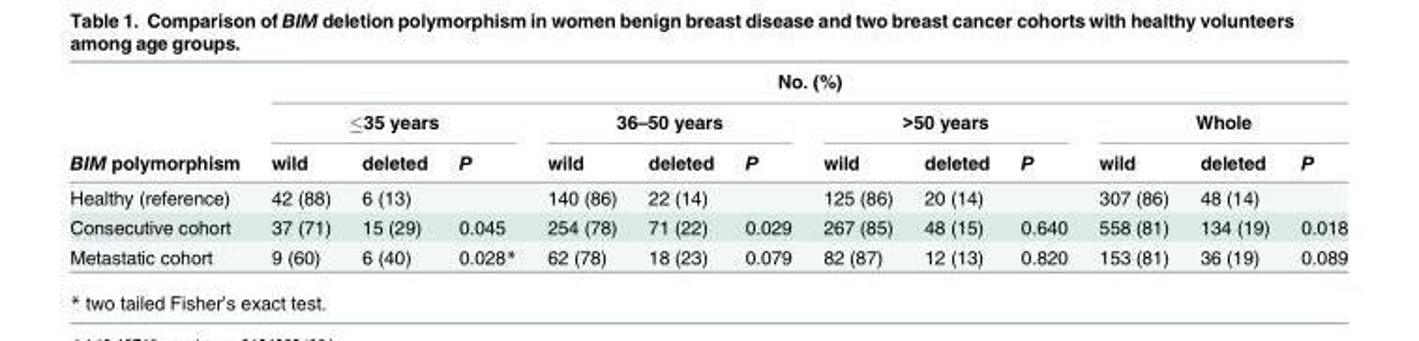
<table><thead><tr><td rowspan="3">BIM polymorphism</td><td colspan="12">No. (%)</td></tr><tr><td colspan="3">≤35 years</td><td colspan="3">36–50 years</td><td colspan="3">&gt;50 years</td><td colspan="3">Whole</td></tr><tr><td>wild</td><td>deleted</td><td>P</td><td>wild</td><td>deleted</td><td>P</td><td>wild</td><td>deleted</td><td>P</td><td>wild</td><td>deleted</td><td>P</td></tr></thead><tbody><tr><td>Healthy (reference)</td><td>42 (88)</td><td>6 (13)</td><td></td><td>140 (86)</td><td>22 (14)</td><td></td><td>125 (86)</td><td>20 (14)</td><td></td><td>307 (86)</td><td>48 (14)</td><td></td></tr><tr><td>Consecutive cohort</td><td>37 (71)</td><td>15 (29)</td><td>0.045</td><td>254 (78)</td><td>71 (22)</td><td>0.029</td><td>267 (85)</td><td>48 (15)</td><td>0.640</td><td>558 (81)</td><td>134 (19)</td><td>0.018</td></tr><tr><td>Metastatic cohort</td><td>9 (60)</td><td>6 (40)</td><td>0.028*</td><td>62 (78)</td><td>18 (23)</td><td>0.079</td><td>82 (87)</td><td>12 (13)</td><td>0.820</td><td>153 (81)</td><td>36 (19)</td><td>0.089</td></tr></tbody></table>